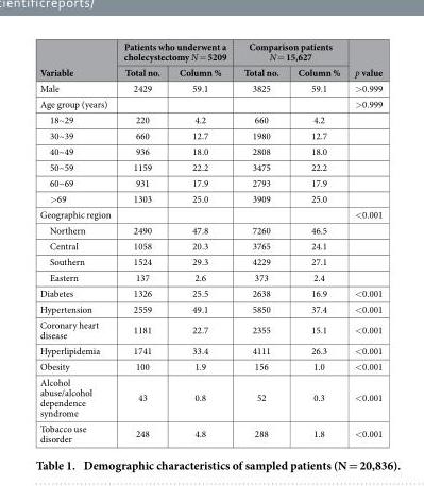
<table><thead><tr><td rowspan="2">Variable</td><td colspan="2">Patients who underwent a cholecystectomy N = 5209</td><td colspan="2">Comparison patients N = 15,627</td><td rowspan="2">p value</td></tr><tr><td>Total no.</td><td>Column %</td><td>Total no.</td><td>Column %</td></tr></thead><tbody><tr><td>Male</td><td>2429</td><td>59.1</td><td>3825</td><td>59.1</td><td>&gt; 0.999</td></tr><tr><td>Age group (years)</td><td></td><td></td><td></td><td></td><td>&gt; 0.999</td></tr><tr><td>18~29</td><td>220</td><td>4.2</td><td>660</td><td>4.2</td><td></td></tr><tr><td>30~39</td><td>660</td><td>12.7</td><td>1980</td><td>12.7</td><td></td></tr><tr><td>40~49</td><td>936</td><td>18.0</td><td>2808</td><td>18.0</td><td></td></tr><tr><td>50~59</td><td>1159</td><td>22.2</td><td>3475</td><td>22.2</td><td></td></tr><tr><td>60~69</td><td>931</td><td>17.9</td><td>2793</td><td>17.9</td><td></td></tr><tr><td>&gt; 69</td><td>1303</td><td>25.0</td><td>3909</td><td>25.0</td><td></td></tr><tr><td>Geographic region</td><td></td><td></td><td></td><td></td><td>&lt; 0.001</td></tr><tr><td>Northern</td><td>2490</td><td>47.8</td><td>7260</td><td>46.5</td><td></td></tr><tr><td>Central</td><td>1058</td><td>20.3</td><td>3765</td><td>24.1</td><td></td></tr><tr><td>Southern</td><td>1524</td><td>29.3</td><td>4229</td><td>27.1</td><td></td></tr><tr><td>Eastern</td><td>137</td><td>2.6</td><td>373</td><td>2.4</td><td></td></tr><tr><td>Diabetes</td><td>1326</td><td>25.5</td><td>2638</td><td>16.9</td><td>&lt; 0.001</td></tr><tr><td>Hypertension</td><td>2559</td><td>49.1</td><td>5850</td><td>37.4</td><td>&lt; 0.001</td></tr><tr><td>Coronary heart disease</td><td>1181</td><td>22.7</td><td>2355</td><td>15.1</td><td>&lt; 0.001</td></tr><tr><td>Hyperlipidemia</td><td>1741</td><td>33.4</td><td>4111</td><td>26.3</td><td>&lt; 0.001</td></tr><tr><td>Obesity</td><td>100</td><td>1.9</td><td>156</td><td>1.0</td><td>&lt; 0.001</td></tr><tr><td>Alcohol abuse/alcohol dependence syndrome</td><td>43</td><td>0.8</td><td>52</td><td>0.3</td><td>&lt; 0.001</td></tr><tr><td>Tobacco use disorder</td><td>248</td><td>4.8</td><td>288</td><td>1.8</td><td>&lt; 0.001</td></tr></tbody></table>